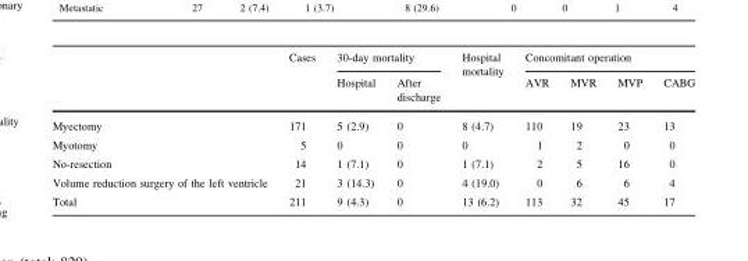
<table><thead><tr><td rowspan="2"></td><td rowspan="2">Cases</td><td colspan="2">30-day mortality</td><td rowspan="2">Hospital mortality</td><td colspan="4">Concomitant operation</td></tr><tr><td>Hospital</td><td>After discharge</td><td>AVR</td><td>MVR</td><td>MVP</td><td>CABG</td></tr></thead><tbody><tr><td>Myectomy</td><td>171</td><td>5 (2.9)</td><td>0</td><td>8 (4.7)</td><td>110</td><td>19</td><td>23</td><td>13</td></tr><tr><td>Myotomy</td><td>5</td><td>0</td><td>0</td><td>0</td><td>1</td><td>2</td><td>0</td><td>0</td></tr><tr><td>No-resection</td><td>14</td><td>1 (7.1)</td><td>0</td><td>1 (7.1)</td><td>2</td><td>5</td><td>16</td><td>0</td></tr><tr><td>Volume reduction surgery of the left ventricle</td><td>21</td><td>3 (14.3)</td><td>0</td><td>4 (19.0)</td><td>0</td><td>6</td><td>6</td><td>4</td></tr><tr><td>Total</td><td>211</td><td>9 (4.3)</td><td>0</td><td>13 (6.2)</td><td>113</td><td>32</td><td>45</td><td>17</td></tr></tbody></table>